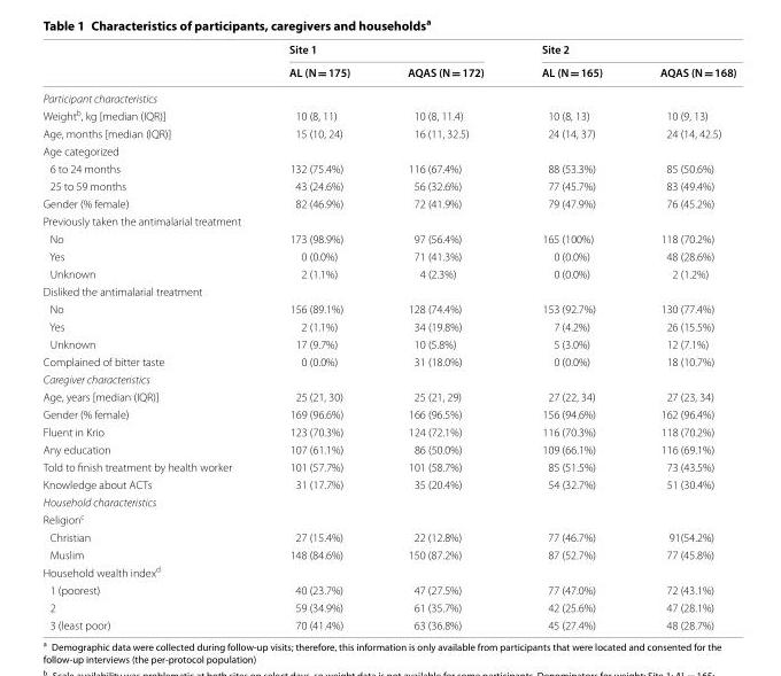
<table><thead><tr><td rowspan="2"></td><td colspan="2">Site 1</td><td colspan="2">Site 2</td></tr><tr><td>AL (N = 175)</td><td>AQAS (N = 172)</td><td>AL (N = 165)</td><td>AQAS (N = 168)</td></tr></thead><tbody><tr><td colspan="5">Participant characteristics</td></tr><tr><td>Weight<sup>b</sup>, kg [median (IQR)]</td><td>10 (8, 11)</td><td>10 (8, 11.4)</td><td>10 (8, 13)</td><td>10 (9, 13)</td></tr><tr><td>Age, months [median (IQR)]</td><td>15 (10, 24)</td><td>16 (11, 32.5)</td><td>24 (14, 37)</td><td>24 (14, 42.5)</td></tr><tr><td colspan="5">Age categorized</td></tr><tr><td>6 to 24 months</td><td>132 (75.4%)</td><td>116 (67.4%)</td><td>88 (53.3%)</td><td>85 (50.6%)</td></tr><tr><td>25 to 59 months</td><td>43 (24.6%)</td><td>56 (32.6%)</td><td>77 (45.7%)</td><td>83 (49.4%)</td></tr><tr><td>Gender (% female)</td><td>82 (46.9%)</td><td>72 (41.9%)</td><td>79 (47.9%)</td><td>76 (45.2%)</td></tr><tr><td colspan="5">Previously taken the antimalarial treatment</td></tr><tr><td>No</td><td>173 (98.9%)</td><td>97 (56.4%)</td><td>165 (100%)</td><td>118 (70.2%)</td></tr><tr><td>Yes</td><td>0 (0.0%)</td><td>71 (41.3%)</td><td>0 (0.0%)</td><td>48 (28.6%)</td></tr><tr><td>Unknown</td><td>2 (1.1%)</td><td>4 (2.3%)</td><td>0 (0.0%)</td><td>2 (1.2%)</td></tr><tr><td colspan="5">Disliked the antimalarial treatment</td></tr><tr><td>No</td><td>156 (89.1%)</td><td>128 (74.4%)</td><td>153 (92.7%)</td><td>130 (77.4%)</td></tr><tr><td>Yes</td><td>2 (1.1%)</td><td>34 (19.8%)</td><td>7 (4.2%)</td><td>26 (15.5%)</td></tr><tr><td>Unknown</td><td>17 (9.7%)</td><td>10 (5.8%)</td><td>5 (3.0%)</td><td>12 (7.1%)</td></tr><tr><td>Complained of bitter taste</td><td>0 (0.0%)</td><td>31 (18.0%)</td><td>0 (0.0%)</td><td>18 (10.7%)</td></tr><tr><td colspan="5">Caregiver characteristics</td></tr><tr><td>Age, years [median (IQR)]</td><td>25 (21, 30)</td><td>25 (21, 29)</td><td>27 (22, 34)</td><td>27 (23, 34)</td></tr><tr><td>Gender (% female)</td><td>169 (96.6%)</td><td>166 (96.5%)</td><td>156 (94.6%)</td><td>162 (96.4%)</td></tr><tr><td>Fluent in Krio</td><td>123 (70.3%)</td><td>124 (72.1%)</td><td>116 (70.3%)</td><td>118 (70.2%)</td></tr><tr><td>Any education</td><td>107 (61.1%)</td><td>86 (50.0%)</td><td>109 (66.1%)</td><td>116 (69.1%)</td></tr><tr><td>Told to finish treatment by health worker</td><td>101 (57.7%)</td><td>101 (58.7%)</td><td>85 (51.5%)</td><td>73 (43.5%)</td></tr><tr><td>Knowledge about ACTs</td><td>31 (17.7%)</td><td>35 (20.4%)</td><td>54 (32.7%)</td><td>51 (30.4%)</td></tr><tr><td colspan="5">Household characteristics</td></tr><tr><td colspan="5">Religion<sup>c</sup></td></tr><tr><td>Christian</td><td>27 (15.4%)</td><td>22 (12.8%)</td><td>77 (46.7%)</td><td>91(54.2%)</td></tr><tr><td>Muslim</td><td>148 (84.6%)</td><td>150 (87.2%)</td><td>87 (52.7%)</td><td>77 (45.8%)</td></tr><tr><td colspan="5">Household wealth index<sup>d</sup></td></tr><tr><td>1 (poorest)</td><td>40 (23.7%)</td><td>47 (27.5%)</td><td>77 (47.0%)</td><td>72 (43.1%)</td></tr><tr><td>2</td><td>59 (34.9%)</td><td>61 (35.7%)</td><td>42 (25.6%)</td><td>47 (28.1%)</td></tr><tr><td>3 (least poor)</td><td>70 (41.4%)</td><td>63 (36.8%)</td><td>45 (27.4%)</td><td>48 (28.7%)</td></tr></tbody></table>